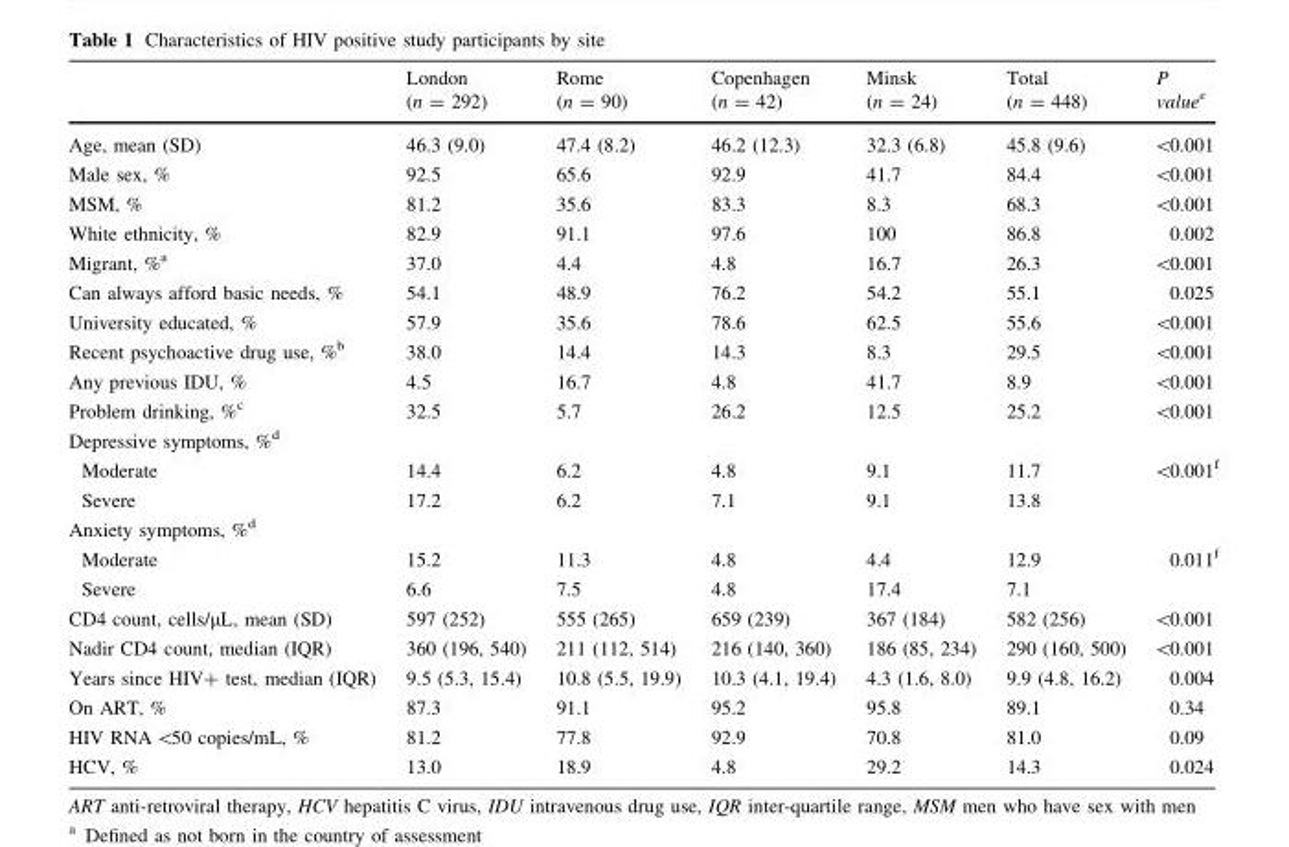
<table><thead><tr><td></td><td>London (n = 292)</td><td>Rome (n = 90)</td><td>Copenhagen (n = 42)</td><td>Minsk (n = 24)</td><td>Total (n = 448)</td><td>P value<sup>e</sup></td></tr></thead><tbody><tr><td>Age, mean (SD)</td><td>46.3 (9.0)</td><td>47.4 (8.2)</td><td>46.2 (12.3)</td><td>32.3 (6.8)</td><td>45.8 (9.6)</td><td>&lt;0.001</td></tr><tr><td>Male sex, %</td><td>92.5</td><td>65.6</td><td>92.9</td><td>41.7</td><td>84.4</td><td>&lt;0.001</td></tr><tr><td>MSM, %</td><td>81.2</td><td>35.6</td><td>83.3</td><td>8.3</td><td>68.3</td><td>&lt;0.001</td></tr><tr><td>White ethnicity, %</td><td>82.9</td><td>91.1</td><td>97.6</td><td>100</td><td>86.8</td><td>0.002</td></tr><tr><td>Migrant, %<sup>a</sup></td><td>37.0</td><td>4.4</td><td>4.8</td><td>16.7</td><td>26.3</td><td>&lt;0.001</td></tr><tr><td>Can always afford basic needs, %</td><td>54.1</td><td>48.9</td><td>76.2</td><td>54.2</td><td>55.1</td><td>0.025</td></tr><tr><td>University educated, %</td><td>57.9</td><td>35.6</td><td>78.6</td><td>62.5</td><td>55.6</td><td>&lt;0.001</td></tr><tr><td>Recent psychoactive drug use, %<sup>b</sup></td><td>38.0</td><td>14.4</td><td>14.3</td><td>8.3</td><td>29.5</td><td>&lt;0.001</td></tr><tr><td>Any previous IDU, %</td><td>4.5</td><td>16.7</td><td>4.8</td><td>41.7</td><td>8.9</td><td>&lt;0.001</td></tr><tr><td>Problem drinking, %<sup>c</sup></td><td>32.5</td><td>5.7</td><td>26.2</td><td>12.5</td><td>25.2</td><td>&lt;0.001</td></tr><tr><td colspan="7">Depressive symptoms, %<sup>d</sup></td></tr><tr><td>Moderate</td><td>14.4</td><td>6.2</td><td>4.8</td><td>9.1</td><td>11.7</td><td>&lt;0.001<sup>f</sup></td></tr><tr><td>Severe</td><td>17.2</td><td>6.2</td><td>7.1</td><td>9.1</td><td>13.8</td><td></td></tr><tr><td colspan="7">Anxiety symptoms, %<sup>d</sup></td></tr><tr><td>Moderate</td><td>15.2</td><td>11.3</td><td>4.8</td><td>4.4</td><td>12.9</td><td>0.011<sup>f</sup></td></tr><tr><td>Severe</td><td>6.6</td><td>7.5</td><td>4.8</td><td>17.4</td><td>7.1</td><td></td></tr><tr><td>CD4 count, cells/μL, mean (SD)</td><td>597 (252)</td><td>555 (265)</td><td>659 (239)</td><td>367 (184)</td><td>582 (256)</td><td>&lt;0.001</td></tr><tr><td>Nadir CD4 count, median (IQR)</td><td>360 (196, 540)</td><td>211 (112, 514)</td><td>216 (140, 360)</td><td>186 (85, 234)</td><td>290 (160, 500)</td><td>&lt;0.001</td></tr><tr><td>Years since HIV+ test, median (IQR)</td><td>9.5 (5.3, 15.4)</td><td>10.8 (5.5, 19.9)</td><td>10.3 (4.1, 19.4)</td><td>4.3 (1.6, 8.0)</td><td>9.9 (4.8, 16.2)</td><td>0.004</td></tr><tr><td>On ART, %</td><td>87.3</td><td>91.1</td><td>95.2</td><td>95.8</td><td>89.1</td><td>0.34</td></tr><tr><td>HIV RNA &lt;50 copies/mL, %</td><td>81.2</td><td>77.8</td><td>92.9</td><td>70.8</td><td>81.0</td><td>0.09</td></tr><tr><td>HCV, %</td><td>13.0</td><td>18.9</td><td>4.8</td><td>29.2</td><td>14.3</td><td>0.024</td></tr></tbody></table>